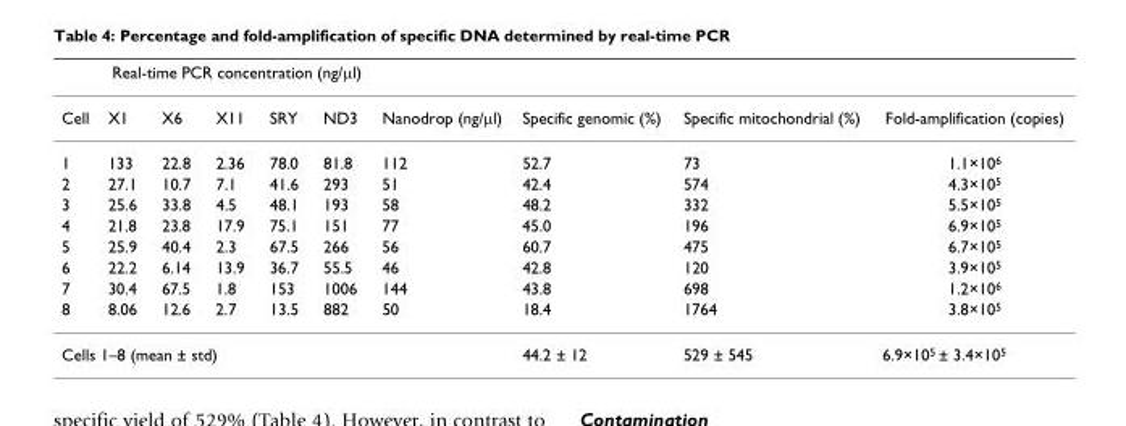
<table><thead><tr><td rowspan="2">Cell</td><td colspan="5">Real-time PCR concentration (ng/μl)</td><td rowspan="2">Nanodrop (ng/μl)</td><td rowspan="2">Specific genomic (%)</td><td rowspan="2">Specific mitochondrial (%)</td><td rowspan="2">Fold-amplification (copies)</td></tr><tr><td>X1</td><td>X6</td><td>X11</td><td>SRY</td><td>ND3</td></tr></thead><tbody><tr><td>1</td><td>133</td><td>22.8</td><td>2.36</td><td>78.0</td><td>81.8</td><td>112</td><td>52.7</td><td>73</td><td>1.1×10<sup>6</sup></td></tr><tr><td>2</td><td>27.1</td><td>10.7</td><td>7.1</td><td>41.6</td><td>293</td><td>51</td><td>42.4</td><td>574</td><td>4.3×10<sup>5</sup></td></tr><tr><td>3</td><td>25.6</td><td>33.8</td><td>4.5</td><td>48.1</td><td>193</td><td>58</td><td>48.2</td><td>332</td><td>5.5×10<sup>5</sup></td></tr><tr><td>4</td><td>21.8</td><td>23.8</td><td>17.9</td><td>75.1</td><td>151</td><td>77</td><td>45.0</td><td>196</td><td>6.9×10<sup>5</sup></td></tr><tr><td>5</td><td>25.9</td><td>40.4</td><td>2.3</td><td>67.5</td><td>266</td><td>56</td><td>60.7</td><td>475</td><td>6.7×10<sup>5</sup></td></tr><tr><td>6</td><td>22.2</td><td>6.14</td><td>13.9</td><td>36.7</td><td>55.5</td><td>46</td><td>42.8</td><td>120</td><td>3.9×10<sup>5</sup></td></tr><tr><td>7</td><td>30.4</td><td>67.5</td><td>1.8</td><td>153</td><td>1006</td><td>144</td><td>43.8</td><td>698</td><td>1.2×10<sup>6</sup></td></tr><tr><td>8</td><td>8.06</td><td>12.6</td><td>2.7</td><td>13.5</td><td>882</td><td>50</td><td>18.4</td><td>1764</td><td>3.8×10<sup>5</sup></td></tr><tr><td colspan="7">Cells 1–8 (mean ± std)</td><td>44.2 ± 12</td><td>529 ± 545</td><td>6.9×10<sup>5</sup> ± 3.4×10<sup>5</sup></td></tr></tbody></table>